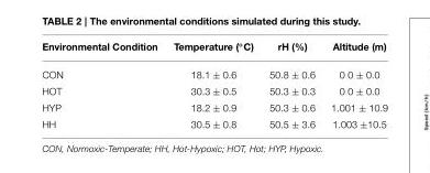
<table><thead><tr><td>Environmental Condition</td><td>Temperature (◦C)</td><td>rH (%)</td><td>Altitude (m)</td></tr></thead><tbody><tr><td>CON</td><td>18.1 ± 0.6</td><td>50.8 ± 0.6</td><td>0 0 ± 0.0</td></tr><tr><td>HOT</td><td>30.3 ± 0.5</td><td>50.3 ± 0.3</td><td>0 0 ± 0.0</td></tr><tr><td>HYP</td><td>18.2 ± 0.9</td><td>50.3 ± 0.6</td><td>1.001 ± 10.9</td></tr><tr><td>HH</td><td>30.5 ± 0.8</td><td>50.5 ± 3.6</td><td>1.003 ±10.5</td></tr></tbody></table>